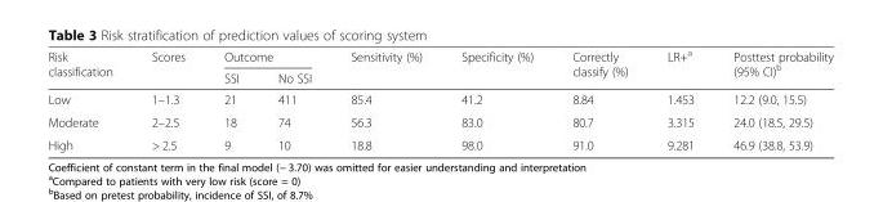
<table><thead><tr><td rowspan="2">Risk classification</td><td rowspan="2">Scores</td><td colspan="2">Outcome</td><td rowspan="2">Sensitivity (%)</td><td rowspan="2">Specificity (%)</td><td rowspan="2">Correctly classify (%)</td><td rowspan="2">LR+<sup>a</sup></td><td rowspan="2">Posttest probability (95% CI)<sup>b</sup></td></tr><tr><td>SSI</td><td>No SSI</td></tr></thead><tbody><tr><td>Low</td><td>1–1.3</td><td>21</td><td>411</td><td>85.4</td><td>41.2</td><td>8.84</td><td>1.453</td><td>12.2 (9.0, 15.5)</td></tr><tr><td>Moderate</td><td>2–2.5</td><td>18</td><td>74</td><td>56.3</td><td>83.0</td><td>80.7</td><td>3.315</td><td>24.0 (18.5, 29.5)</td></tr><tr><td>High</td><td>&gt; 2.5</td><td>9</td><td>10</td><td>18.8</td><td>98.0</td><td>91.0</td><td>9.281</td><td>46.9 (38.8, 53.9)</td></tr></tbody></table>